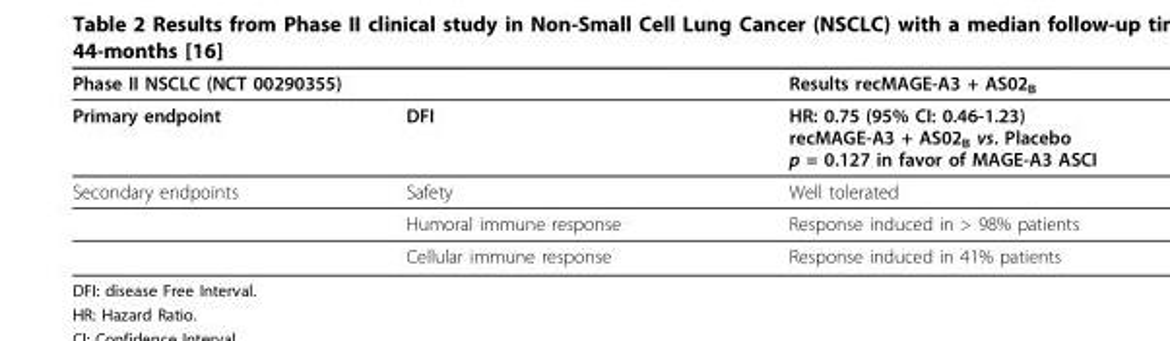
<table><thead><tr><td colspan="2">Phase II NSCLC (NCT 00290355)</td><td rowspan="2">Results recMAGE-A3 + AS02B HR: 0.75 (95% CI: 0.46-1.23) recMAGE-A3 + AS02B vs. Placebo p = 0.127 in favor of MAGE-A3 ASCI</td></tr><tr><td>Primary endpoint</td><td>DFI</td></tr></thead><tbody><tr><td rowspan="3">Secondary endpoints</td><td>Safety</td><td>Well tolerated</td></tr><tr><td>Humoral immune response</td><td>Response induced in &gt; 98% patients</td></tr><tr><td>Cellular immune response</td><td>Response induced in 41% patients</td></tr></tbody></table>